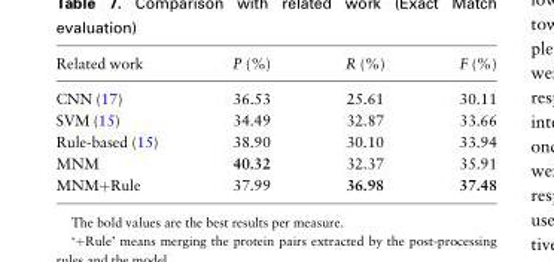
<table><thead><tr><td>Related work</td><td>P (%)</td><td>R (%)</td><td>F (%)</td></tr></thead><tbody><tr><td>CNN (17)</td><td>36.53</td><td>25.61</td><td>30.11</td></tr><tr><td>SVM (15)</td><td>34.49</td><td>32.87</td><td>33.66</td></tr><tr><td>Rule-based (15)</td><td>38.90</td><td>30.10</td><td>33.94</td></tr><tr><td>MNM</td><td>40.32</td><td>32.37</td><td>35.91</td></tr><tr><td>MNM+Rule</td><td>37.99</td><td>36.98</td><td>37.48</td></tr></tbody></table>